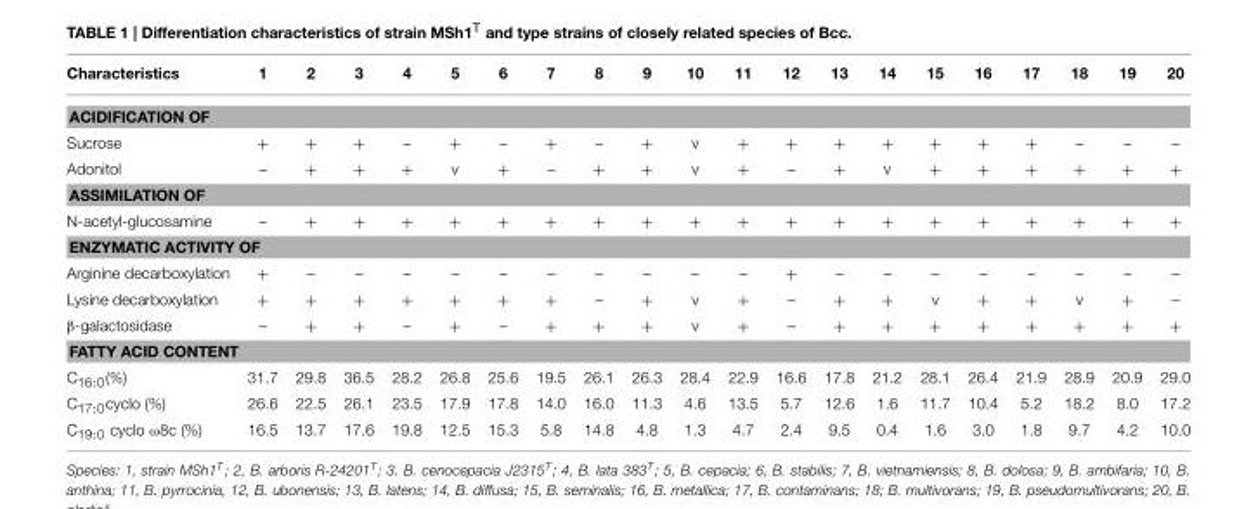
<table><thead><tr><td>Characteristics</td><td>1</td><td>2</td><td>3</td><td>4</td><td>5</td><td>6</td><td>7</td><td>8</td><td>9</td><td>10</td><td>11</td><td>12</td><td>13</td><td>14</td><td>15</td><td>16</td><td>17</td><td>18</td><td>19</td><td>20</td></tr></thead><tbody><tr><td colspan="21">ACIDIFICATION OF</td></tr><tr><td>Sucrose</td><td>+</td><td>+</td><td>+</td><td>–</td><td>+</td><td>–</td><td>+</td><td>–</td><td>+</td><td>v</td><td>+</td><td>+</td><td>+</td><td>+</td><td>+</td><td>+</td><td>+</td><td>–</td><td>–</td><td>–</td></tr><tr><td>Adonitol</td><td>–</td><td>+</td><td>+</td><td>+</td><td>v</td><td>+</td><td>–</td><td>+</td><td>+</td><td>v</td><td>+</td><td>–</td><td>+</td><td>v</td><td>+</td><td>+</td><td>+</td><td>+</td><td>+</td><td>+</td></tr><tr><td colspan="21">ASSIMILATION OF</td></tr><tr><td>N-acetyl-glucosamine</td><td>–</td><td>+</td><td>+</td><td>+</td><td>+</td><td>+</td><td>+</td><td>+</td><td>+</td><td>+</td><td>+</td><td>+</td><td>+</td><td>+</td><td>+</td><td>+</td><td>+</td><td>+</td><td>+</td><td>+</td></tr><tr><td colspan="21">ENZYMATIC ACTIVITY OF</td></tr><tr><td>Arginine decarboxylation</td><td>+</td><td>–</td><td>–</td><td>–</td><td>–</td><td>–</td><td>–</td><td>–</td><td>–</td><td>–</td><td>–</td><td>+</td><td>–</td><td>–</td><td>–</td><td>–</td><td>–</td><td>–</td><td>–</td><td>–</td></tr><tr><td>Lysine decarboxylation</td><td>+</td><td>+</td><td>+</td><td>+</td><td>+</td><td>+</td><td>+</td><td>–</td><td>+</td><td>v</td><td>+</td><td>–</td><td>+</td><td>+</td><td>v</td><td>+</td><td>+</td><td>v</td><td>+</td><td>–</td></tr><tr><td>β-galactosidase</td><td>–</td><td>+</td><td>+</td><td>–</td><td>+</td><td>–</td><td>+</td><td>+</td><td>+</td><td>v</td><td>+</td><td>–</td><td>+</td><td>+</td><td>+</td><td>+</td><td>+</td><td>+</td><td>+</td><td>+</td></tr><tr><td colspan="21">FATTY ACID CONTENT</td></tr><tr><td>C<sub>16:0</sub>(%)</td><td>31.7</td><td>29.8</td><td>36.5</td><td>28.2</td><td>26.8</td><td>25.6</td><td>19.5</td><td>26.1</td><td>26.3</td><td>28.4</td><td>22.9</td><td>16.6</td><td>17.8</td><td>21.2</td><td>28.1</td><td>26.4</td><td>21.9</td><td>28.9</td><td>20.9</td><td>29.0</td></tr><tr><td>C<sub>17:0</sub>cyclo (%)</td><td>26.6</td><td>22.5</td><td>26.1</td><td>23.5</td><td>17.9</td><td>17.8</td><td>14.0</td><td>16.0</td><td>11.3</td><td>4.6</td><td>13.5</td><td>5.7</td><td>12.6</td><td>1.6</td><td>11.7</td><td>10.4</td><td>5.2</td><td>18.2</td><td>8.0</td><td>17.2</td></tr><tr><td>C<sub>19:0</sub> cyclo ω8c (%)</td><td>16.5</td><td>13.7</td><td>17.6</td><td>19.8</td><td>12.5</td><td>15.3</td><td>5.8</td><td>14.8</td><td>4.8</td><td>1.3</td><td>4.7</td><td>2.4</td><td>9.5</td><td>0.4</td><td>1.6</td><td>3.0</td><td>1.8</td><td>9.7</td><td>4.2</td><td>10.0</td></tr></tbody></table>